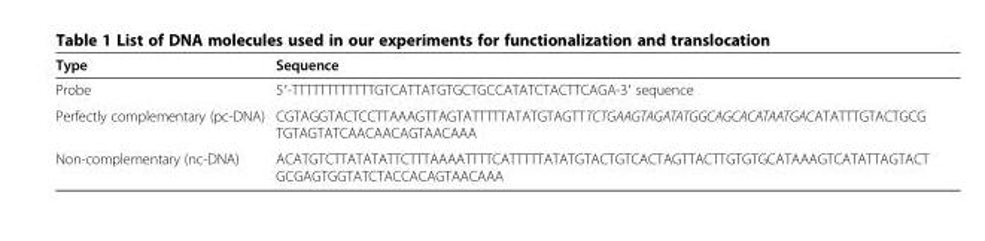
<table><thead><tr><td>Type</td><td>Sequence</td></tr></thead><tbody><tr><td>Probe</td><td>5′-TTTTTTTTTTTTGTCATTATGTGCTGCCATATCTACTTCAGA-3′ sequence</td></tr><tr><td>Perfectly complementary (pc-DNA)</td><td>CGTAGGTACTCCTTAAAGTTAGTATTTTTATATGTAGTTTCTGAAGTAGATATGGCAGCACATAATGACATATTTGTACTGCG TGTAGTATCAACAACAGTAACAAA</td></tr><tr><td>Non-complementary (nc-DNA)</td><td>ACATGTCTTATATATTCTTTAAAATTTTCATTTTTATATGTACTGTCACTAGTTACTTGTGTGCATAAAGTCATATTAGTACT GCGAGTGGTATCTACCACAGTAACAAA</td></tr></tbody></table>